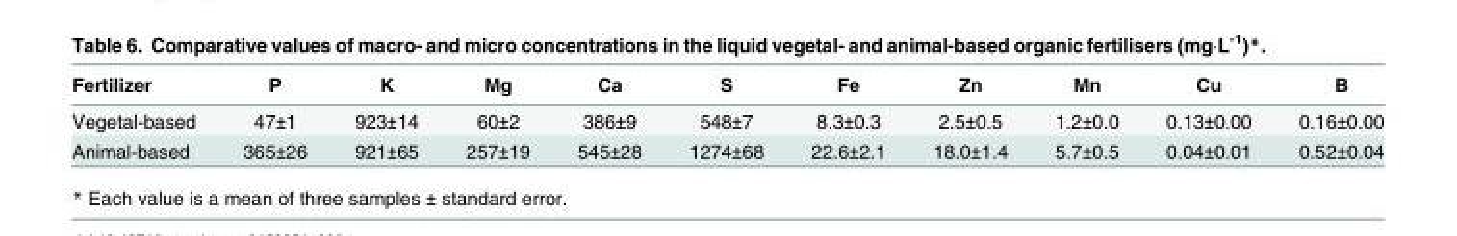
<table><thead><tr><td>Fertilizer</td><td>P</td><td>K</td><td>Mg</td><td>Ca</td><td>S</td><td>Fe</td><td>Zn</td><td>Mn</td><td>Cu</td><td>B</td></tr></thead><tbody><tr><td>Vegetal-based</td><td>47±1</td><td>923±14</td><td>60±2</td><td>386±9</td><td>548±7</td><td>8.3±0.3</td><td>2.5±0.5</td><td>1.2±0.0</td><td>0.13±0.00</td><td>0.16±0.00</td></tr><tr><td>Animal-based</td><td>365±26</td><td>921±65</td><td>257±19</td><td>545±28</td><td>1274±68</td><td>22.6±2.1</td><td>18.0±1.4</td><td>5.7±0.5</td><td>0.04±0.01</td><td>0.52±0.04</td></tr></tbody></table>